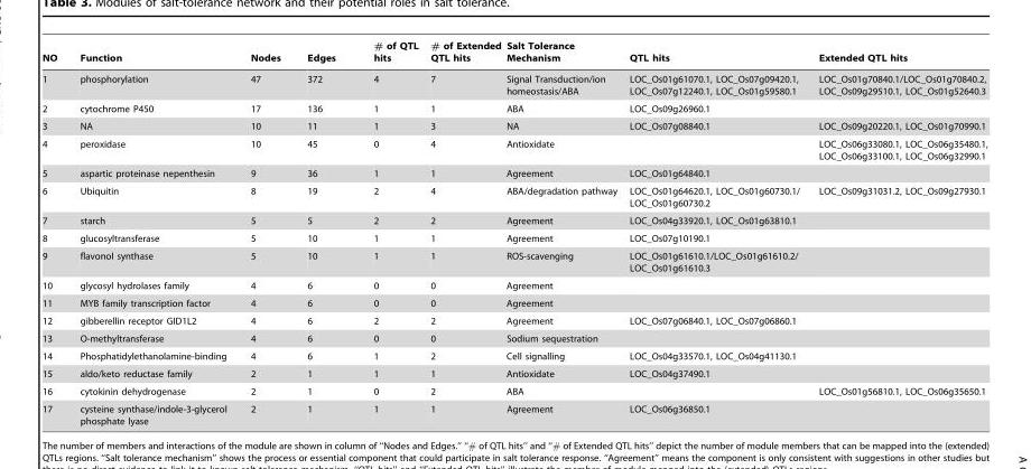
<table><thead><tr><td>NO</td><td>Function</td><td>Nodes</td><td>Edges</td><td># of QTL hits</td><td># of Extended QTL hits</td><td>Salt Tolerance Mechanism</td><td>QTL hits</td><td>Extended QTL hits</td></tr></thead><tbody><tr><td>1</td><td>phosphorylation</td><td>47</td><td>372</td><td>4</td><td>7</td><td>Signal Transduction/ion homeostasis/ABA</td><td>LOC_Os01g61070.1, LOC_Os07g09420.1, LOC_Os07g12240.1, LOC_Os01g59580.1</td><td>LOC_Os01g70840.1/LOC_Os01g70840.2, LOC_Os09g29510.1, LOC_Os01g52640.3</td></tr><tr><td>2</td><td>cytochrome P450</td><td>17</td><td>136</td><td>1</td><td>1</td><td>ABA</td><td>LOC_Os09g26960.1</td><td></td></tr><tr><td>3</td><td>NA</td><td>10</td><td>11</td><td>1</td><td>3</td><td>NA</td><td>LOC_Os07g08840.1</td><td>LOC_Os09g20220.1, LOC_Os01g70990.1</td></tr><tr><td>4</td><td>peroxidase</td><td>10</td><td>45</td><td>0</td><td>4</td><td>Antioxidate</td><td></td><td>LOC_Os06g33080.1, LOC_Os06g35480.1, LOC_Os06g33100.1, LOC_Os06g32990.1</td></tr><tr><td>5</td><td>aspartic proteinase nepenthesin</td><td>9</td><td>36</td><td>1</td><td>1</td><td>Agreement</td><td>LOC_Os01g64840.1</td><td></td></tr><tr><td>6</td><td>Ubiquitin</td><td>8</td><td>19</td><td>2</td><td>4</td><td>ABA/degradation pathway</td><td>LOC_Os01g64620.1, LOC_Os01g60730.1/ LOC_Os01g60730.2</td><td>LOC_Os09g31031.2, LOC_Os09g27930.1</td></tr><tr><td>7</td><td>starch</td><td>5</td><td>5</td><td>2</td><td>2</td><td>Agreement</td><td>LOC_Os04g33920.1, LOC_Os01g63810.1</td><td></td></tr><tr><td>8</td><td>glucosyltransferase</td><td>5</td><td>10</td><td>1</td><td>1</td><td>Agreement</td><td>LOC_Os07g10190.1</td><td></td></tr><tr><td>9</td><td>flavonol synthase</td><td>5</td><td>10</td><td>1</td><td>1</td><td>ROS-scavenging</td><td>LOC_Os01g61610.1/LOC_Os01g61610.2/ LOC_Os01g61610.3</td><td></td></tr><tr><td>10</td><td>glycosyl hydrolases family</td><td>4</td><td>6</td><td>0</td><td>0</td><td>Agreement</td><td></td><td></td></tr><tr><td>11</td><td>MYB family transcription factor</td><td>4</td><td>6</td><td>0</td><td>0</td><td>Agreement</td><td></td><td></td></tr><tr><td>12</td><td>gibberellin receptor GID1L2</td><td>4</td><td>6</td><td>2</td><td>2</td><td>Agreement</td><td>LOC_Os07g06840.1, LOC_Os07g06860.1</td><td></td></tr><tr><td>13</td><td>O-methyltransferase</td><td>4</td><td>6</td><td>0</td><td>0</td><td>Sodium sequestration</td><td></td><td></td></tr><tr><td>14</td><td>Phosphatidylethanolamine-binding</td><td>4</td><td>6</td><td>1</td><td>2</td><td>Cell signalling</td><td>LOC_Os04g33570.1, LOC_Os04g41130.1</td><td></td></tr><tr><td>15</td><td>aldo/keto reductase family</td><td>2</td><td>1</td><td>1</td><td>1</td><td>Antioxidate</td><td>LOC_Os04g37490.1</td><td></td></tr><tr><td>16</td><td>cytokinin dehydrogenase</td><td>2</td><td>1</td><td>0</td><td>2</td><td>ABA</td><td></td><td>LOC_Os01g56810.1, LOC_Os06g35650.1</td></tr><tr><td>17</td><td>cysteine synthase/indole-3-glycerol phosphate lyase</td><td>2</td><td>1</td><td>1</td><td>1</td><td>Agreement</td><td>LOC_Os06g36850.1</td><td></td></tr></tbody></table>